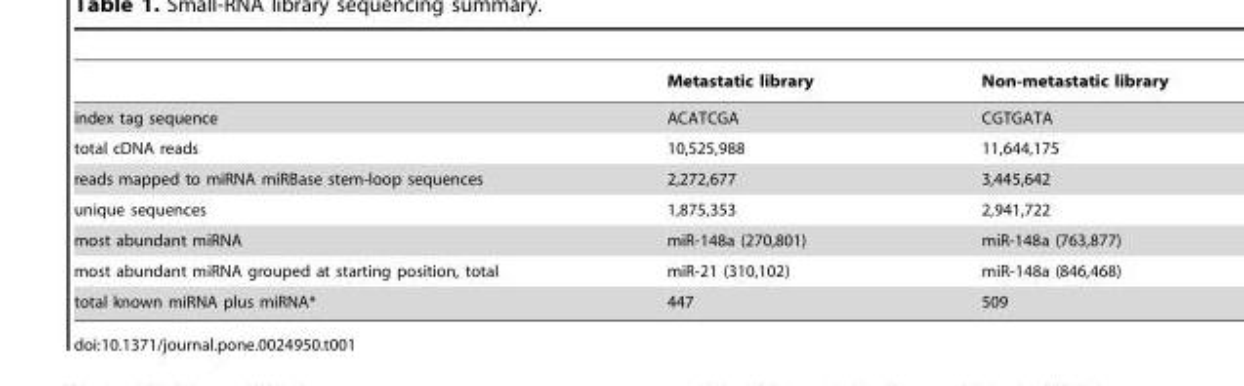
<table><thead><tr><td></td><td>Metastatic library</td><td>Non-metastatic library</td></tr></thead><tbody><tr><td>index tag sequence</td><td>ACATCGA</td><td>CGTGATA</td></tr><tr><td>total cDNA reads</td><td>10,525,988</td><td>11,644,175</td></tr><tr><td>reads mapped to miRNA miRBase stem-loop sequences</td><td>2,272,677</td><td>3,445,642</td></tr><tr><td>unique sequences</td><td>1,875,353</td><td>2,941,722</td></tr><tr><td>most abundant miRNA</td><td>miR-148a (270,801)</td><td>miR-148a (763,877)</td></tr><tr><td>most abundant miRNA grouped at starting position, total</td><td>miR-21 (310,102)</td><td>miR-148a (846,468)</td></tr><tr><td>total known miRNA plus miRNA*</td><td>447</td><td>509</td></tr></tbody></table>